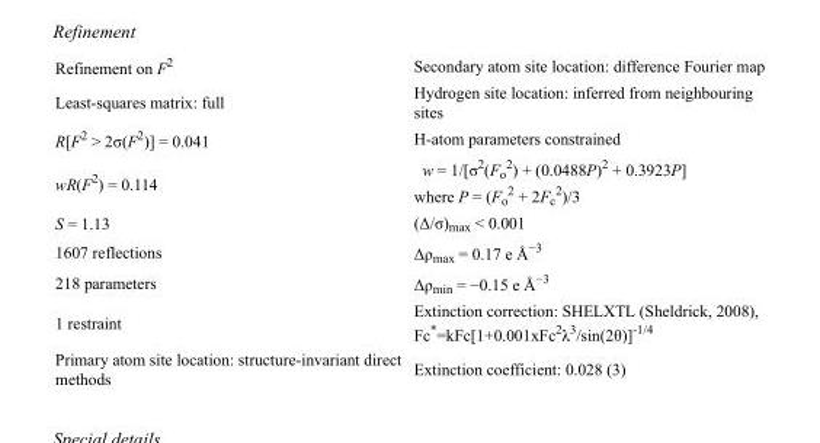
<table><tbody><tr><td>Refinement on F<sup>2</sup></td><td>Secondary atom site location: difference Fourier map</td></tr><tr><td>Least-squares matrix: full</td><td>Hydrogen site location: inferred from neighbouring sites</td></tr><tr><td>R[F<sup>2</sup> &gt; 2σ(F<sup>2</sup>)] = 0.041</td><td>H-atom parameters constrained</td></tr><tr><td>wR(F<sup>2</sup>) = 0.114</td><td>w = 1/[σ<sup>2</sup>(F<sub>o</sub> <sup>2</sup>) + (0.0488P)<sup>2</sup> + 0.3923P] where P = (F<sub>o</sub> <sup>2</sup> + 2F<sub>c</sub> <sup>2</sup>)/3</td></tr><tr><td>S = 1.13</td><td>(Δ/σ)<sub>max</sub> &lt; 0.001</td></tr><tr><td>1607 reflections</td><td>Δρ<sub>max</sub> = 0.17 e Å<sup>−3</sup></td></tr><tr><td>218 parameters</td><td>Δρ<sub>min</sub> = −0.15 e Å<sup>−3</sup></td></tr><tr><td>1 restraint</td><td>Extinction correction: SHELXTL (Sheldrick, 2008), Fc*=kFc[1+0.001xFc<sup>2</sup>λ<sup>3</sup>/sin(2θ)]<sup>-1/4</sup></td></tr><tr><td>Primary atom site location: structure-invariant direct methods</td><td>Extinction coefficient: 0.028 (3)</td></tr></tbody></table>